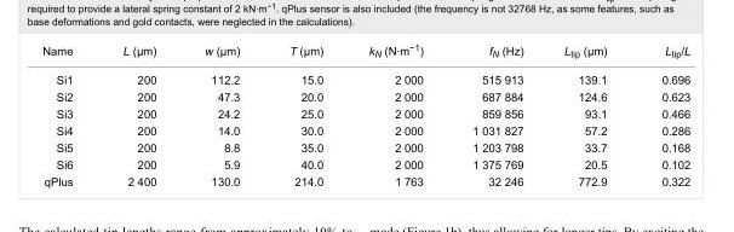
<table><tbody><tr><td>Name</td><td>L (μm)</td><td>w (μm)</td><td>T (μm)</td><td>k<sub>N</sub> (N·m<sup>−1</sup>)</td><td>f<sub>N</sub> (Hz)</td><td>L<sub>tip</sub> (μm)</td><td>L<sub>tip</sub>/L</td></tr><tr><td>Si1</td><td>200</td><td>112.2</td><td>15.0</td><td>2 000</td><td>515 913</td><td>139.1</td><td>0.696</td></tr><tr><td>Si2</td><td>200</td><td>47.3</td><td>20.0</td><td>2 000</td><td>687 884</td><td>124.6</td><td>0.623</td></tr><tr><td>Si3</td><td>200</td><td>24.2</td><td>25.0</td><td>2 000</td><td>859 856</td><td>93.1</td><td>0.466</td></tr><tr><td>Si4</td><td>200</td><td>14.0</td><td>30.0</td><td>2 000</td><td>1 031 827</td><td>57.2</td><td>0.286</td></tr><tr><td>Si5</td><td>200</td><td>8.8</td><td>35.0</td><td>2 000</td><td>1 203 798</td><td>33.7</td><td>0.168</td></tr><tr><td>Si6</td><td>200</td><td>5.9</td><td>40.0</td><td>2 000</td><td>1 375 769</td><td>20.5</td><td>0.102</td></tr><tr><td>qPlus</td><td>2 400</td><td>130.0</td><td>214.0</td><td>1 763</td><td>32 246</td><td>772.9</td><td>0.322</td></tr></tbody></table>